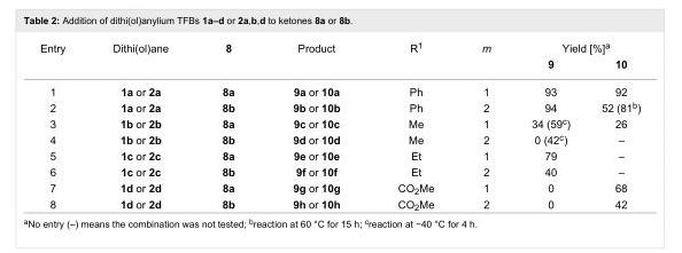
<table><tbody><tr><td rowspan="2">Entry</td><td rowspan="2">Dithi(ol)ane</td><td rowspan="2">8</td><td rowspan="2">Product</td><td rowspan="2">R<sup>1</sup></td><td rowspan="2">m</td><td colspan="2">Yield [%]<sup>a</sup></td></tr><tr><td>9</td><td>10</td></tr><tr><td>1</td><td>1a or 2a</td><td>8a</td><td>9a or 10a</td><td>Ph</td><td>1</td><td>93</td><td>92</td></tr><tr><td>2</td><td>1a or 2a</td><td>8b</td><td>9b or 10b</td><td>Ph</td><td>2</td><td>94</td><td>52 (81<sup>b</sup>)</td></tr><tr><td>3</td><td>1b or 2b</td><td>8a</td><td>9c or 10c</td><td>Me</td><td>1</td><td>34 (59<sup>c</sup>)</td><td>26</td></tr><tr><td>4</td><td>1b or 2b</td><td>8b</td><td>9d or 10d</td><td>Me</td><td>2</td><td>0 (42<sup>c</sup>)</td><td>–</td></tr><tr><td>5</td><td>1c or 2c</td><td>8a</td><td>9e or 10e</td><td>Et</td><td>1</td><td>79</td><td>–</td></tr><tr><td>6</td><td>1c or 2c</td><td>8b</td><td>9f or 10f</td><td>Et</td><td>2</td><td>40</td><td>–</td></tr><tr><td>7</td><td>1d or 2d</td><td>8a</td><td>9g or 10g</td><td>CO<sub>2</sub>Me</td><td>1</td><td>0</td><td>68</td></tr><tr><td>8</td><td>1d or 2d</td><td>8b</td><td>9h or 10h</td><td>CO<sub>2</sub>Me</td><td>2</td><td>0</td><td>42</td></tr></tbody></table>